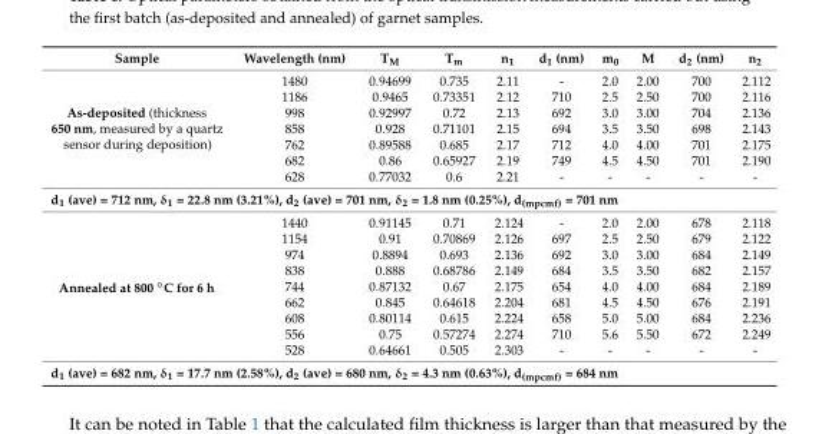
<table><thead><tr><td>Sample</td><td>Wavelength (nm)</td><td>T<sub>M</sub></td><td>T<sub>m</sub></td><td>n<sub>1</sub></td><td>d<sub>1</sub> (nm)</td><td>m<sub>0</sub></td><td>M</td><td>d<sub>2</sub> (nm)</td><td>n<sub>2</sub></td></tr></thead><tbody><tr><td rowspan="7">As-deposited (thickness 650 nm, measured by a quartz sensor during deposition)</td><td>1480</td><td>0.94699</td><td>0.735</td><td>2.11</td><td>-</td><td>2.0</td><td>2.00</td><td>700</td><td>2.112</td></tr><tr><td>1186</td><td>0.9465</td><td>0.73351</td><td>2.12</td><td>710</td><td>2.5</td><td>2.50</td><td>700</td><td>2.116</td></tr><tr><td>998</td><td>0.92997</td><td>0.72</td><td>2.13</td><td>692</td><td>3.0</td><td>3.00</td><td>704</td><td>2.136</td></tr><tr><td>858</td><td>0.928</td><td>0.71101</td><td>2.15</td><td>694</td><td>3.5</td><td>3.50</td><td>698</td><td>2.143</td></tr><tr><td>762</td><td>0.89588</td><td>0.685</td><td>2.17</td><td>712</td><td>4.0</td><td>4.00</td><td>701</td><td>2.175</td></tr><tr><td>682</td><td>0.86</td><td>0.65927</td><td>2.19</td><td>749</td><td>4.5</td><td>4.50</td><td>701</td><td>2.190</td></tr><tr><td>628</td><td>0.77032</td><td>0.6</td><td>2.21</td><td>-</td><td>-</td><td>-</td><td>-</td><td>-</td></tr><tr><td colspan="10">d<sub>1</sub> (ave) = 712 nm, δ<sub>1</sub> = 22.8 nm (3.21%), d<sub>2</sub> (ave) = 701 nm, δ<sub>2</sub> = 1.8 nm (0.25%), d<sub>(mpcmf)</sub> = 701 nm</td></tr><tr><td rowspan="9">Annealed at 800 ◦C for 6 h</td><td>1440</td><td>0.91145</td><td>0.71</td><td>2.124</td><td>-</td><td>2.0</td><td>2.00</td><td>678</td><td>2.118</td></tr><tr><td>1154</td><td>0.91</td><td>0.70869</td><td>2.126</td><td>697</td><td>2.5</td><td>2.50</td><td>679</td><td>2.122</td></tr><tr><td>974</td><td>0.8894</td><td>0.693</td><td>2.136</td><td>692</td><td>3.0</td><td>3.00</td><td>684</td><td>2.149</td></tr><tr><td>838</td><td>0.888</td><td>0.68786</td><td>2.149</td><td>684</td><td>3.5</td><td>3.50</td><td>682</td><td>2.157</td></tr><tr><td>744</td><td>0.87132</td><td>0.67</td><td>2.175</td><td>654</td><td>4.0</td><td>4.00</td><td>684</td><td>2.189</td></tr><tr><td>662</td><td>0.845</td><td>0.64618</td><td>2.204</td><td>681</td><td>4.5</td><td>4.50</td><td>676</td><td>2.191</td></tr><tr><td>608</td><td>0.80114</td><td>0.615</td><td>2.224</td><td>658</td><td>5.0</td><td>5.00</td><td>684</td><td>2.236</td></tr><tr><td>556</td><td>0.75</td><td>0.57274</td><td>2.274</td><td>710</td><td>5.6</td><td>5.50</td><td>672</td><td>2.249</td></tr><tr><td>528</td><td>0.64661</td><td>0.505</td><td>2.303</td><td>-</td><td>-</td><td>-</td><td>-</td><td>-</td></tr><tr><td colspan="10">d<sub>1</sub> (ave) = 682 nm, δ<sub>1</sub> = 17.7 nm (2.58%), d<sub>2</sub> (ave) = 680 nm, δ<sub>2</sub> = 4.3 nm (0.63%), d<sub>(mpcmf)</sub> = 684 nm</td></tr></tbody></table>